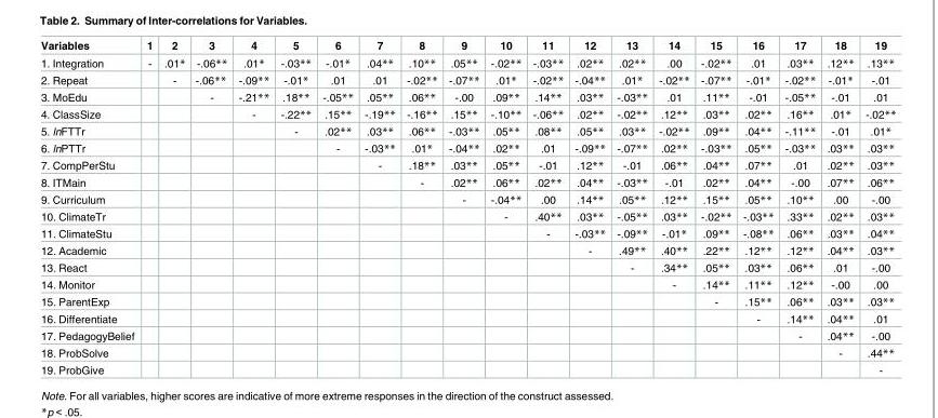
<table><thead><tr><td>Variables</td><td>1</td><td>2</td><td>3</td><td>4</td><td>5</td><td>6</td><td>7</td><td>8</td><td>9</td><td>10</td><td>11</td><td>12</td><td>13</td><td>14</td><td>15</td><td>16</td><td>17</td><td>18</td><td>19</td></tr></thead><tbody><tr><td>1. Integration</td><td>-</td><td>.01*</td><td>-.06**</td><td>.01*</td><td>-.03**</td><td>-.01*</td><td>.04**</td><td>.10**</td><td>.05**</td><td>-.02**</td><td>-.03**</td><td>.02**</td><td>.02**</td><td>.00</td><td>-.02**</td><td>.01</td><td>.03**</td><td>.12**</td><td>.13**</td></tr><tr><td>2. Repeat</td><td></td><td>-</td><td>-.06**</td><td>-.09**</td><td>-.01*</td><td>.01</td><td>.01</td><td>-.02**</td><td>-.07**</td><td>.01*</td><td>-.02**</td><td>-.04**</td><td>.01*</td><td>-.02**</td><td>-.07**</td><td>-.01*</td><td>-.02**</td><td>-.01*</td><td>-.01</td></tr><tr><td>3. MoEdu</td><td></td><td></td><td>-</td><td>-.21**</td><td>.18**</td><td>-.05**</td><td>.05**</td><td>.06**</td><td>-.00</td><td>.09**</td><td>.14**</td><td>.03**</td><td>-.03**</td><td>.01</td><td>.11**</td><td>-.01</td><td>-.05**</td><td>-.01</td><td>.01</td></tr><tr><td>4. ClassSize</td><td></td><td></td><td></td><td>-</td><td>-.22**</td><td>.15**</td><td>-.19**</td><td>-.16**</td><td>.15**</td><td>-.10**</td><td>-.06**</td><td>.02**</td><td>-.02**</td><td>.12**</td><td>.03**</td><td>.02**</td><td>.16**</td><td>.01*</td><td>-.02**</td></tr><tr><td>5. lnFTTr</td><td></td><td></td><td></td><td></td><td>-</td><td>.02**</td><td>.03**</td><td>.06**</td><td>-.03**</td><td>.05**</td><td>.08**</td><td>.05**</td><td>.03**</td><td>-.02**</td><td>.09**</td><td>.04**</td><td>-.11**</td><td>-.01</td><td>.01*</td></tr><tr><td>6. lnPTTr</td><td></td><td></td><td></td><td></td><td></td><td>-</td><td>-.03**</td><td>.01*</td><td>-.04**</td><td>.02**</td><td>.01</td><td>-.09**</td><td>-.07**</td><td>.02**</td><td>-.03**</td><td>.05**</td><td>-.03**</td><td>.03**</td><td>.03**</td></tr><tr><td>7. CompPerStu</td><td></td><td></td><td></td><td></td><td></td><td></td><td>-</td><td>.18**</td><td>.03**</td><td>.05**</td><td>-.01</td><td>.12**</td><td>-.01</td><td>.06**</td><td>.04**</td><td>.07**</td><td>.01</td><td>.02**</td><td>.03**</td></tr><tr><td>8. ITMain</td><td></td><td></td><td></td><td></td><td></td><td></td><td></td><td>-</td><td>.02**</td><td>.06**</td><td>.02**</td><td>.04**</td><td>-.03**</td><td>-.01</td><td>.02**</td><td>.04**</td><td>-.00</td><td>.07**</td><td>.06**</td></tr><tr><td>9. Curriculum</td><td></td><td></td><td></td><td></td><td></td><td></td><td></td><td></td><td>-</td><td>-.04**</td><td>.00</td><td>.14**</td><td>.05**</td><td>.12**</td><td>.15**</td><td>.05**</td><td>.10**</td><td>.00</td><td>-.00</td></tr><tr><td>10. ClimateTr</td><td></td><td></td><td></td><td></td><td></td><td></td><td></td><td></td><td></td><td>-</td><td>.40**</td><td>.03**</td><td>-.05**</td><td>.03**</td><td>-.02**</td><td>-.03**</td><td>.33**</td><td>.02**</td><td>.03**</td></tr><tr><td>11. ClimateStu</td><td></td><td></td><td></td><td></td><td></td><td></td><td></td><td></td><td></td><td></td><td>-</td><td>-.03**</td><td>-.09**</td><td>-.01*</td><td>.09**</td><td>-.08**</td><td>.06**</td><td>.03**</td><td>.04**</td></tr><tr><td>12. Academic</td><td></td><td></td><td></td><td></td><td></td><td></td><td></td><td></td><td></td><td></td><td></td><td>-</td><td>.49**</td><td>.40**</td><td>.22**</td><td>.12**</td><td>.12**</td><td>.04**</td><td>.03**</td></tr><tr><td>13. React</td><td></td><td></td><td></td><td></td><td></td><td></td><td></td><td></td><td></td><td></td><td></td><td></td><td>-</td><td>.34**</td><td>.05**</td><td>.03**</td><td>.06**</td><td>.01</td><td>-.00</td></tr><tr><td>14. Monitor</td><td></td><td></td><td></td><td></td><td></td><td></td><td></td><td></td><td></td><td></td><td></td><td></td><td></td><td>-</td><td>.14**</td><td>.11**</td><td>.12**</td><td>-.00</td><td>.00</td></tr><tr><td>15. ParentExp</td><td></td><td></td><td></td><td></td><td></td><td></td><td></td><td></td><td></td><td></td><td></td><td></td><td></td><td></td><td>-</td><td>.15**</td><td>.06**</td><td>.03**</td><td>.03**</td></tr><tr><td>16. Differentiate</td><td></td><td></td><td></td><td></td><td></td><td></td><td></td><td></td><td></td><td></td><td></td><td></td><td></td><td></td><td></td><td>-</td><td>.14**</td><td>.04**</td><td>.01</td></tr><tr><td>17. PedagogyBelief</td><td></td><td></td><td></td><td></td><td></td><td></td><td></td><td></td><td></td><td></td><td></td><td></td><td></td><td></td><td></td><td></td><td>-</td><td>.04**</td><td>-.00</td></tr><tr><td>18. ProbSolve</td><td></td><td></td><td></td><td></td><td></td><td></td><td></td><td></td><td></td><td></td><td></td><td></td><td></td><td></td><td></td><td></td><td></td><td>-</td><td>.44**</td></tr><tr><td>19. ProbGive</td><td></td><td></td><td></td><td></td><td></td><td></td><td></td><td></td><td></td><td></td><td></td><td></td><td></td><td></td><td></td><td></td><td></td><td></td><td>-</td></tr></tbody></table>